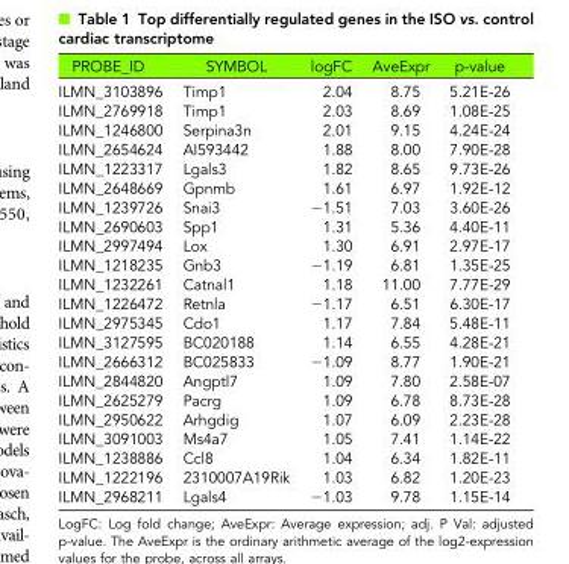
<table><thead><tr><td>PROBE_ID</td><td>SYMBOL</td><td>logFC</td><td>AveExpr</td><td>p-value</td></tr></thead><tbody><tr><td>ILMN_3103896</td><td>Timp1</td><td>2.04</td><td>8.75</td><td>5.21E-26</td></tr><tr><td>ILMN_2769918</td><td>Timp1</td><td>2.03</td><td>8.69</td><td>1.08E-25</td></tr><tr><td>ILMN_1246800</td><td>Serpina3n</td><td>2.01</td><td>9.15</td><td>4.24E-24</td></tr><tr><td>ILMN_2654624</td><td>AI593442</td><td>1.88</td><td>8.00</td><td>7.90E-28</td></tr><tr><td>ILMN_1223317</td><td>Lgals3</td><td>1.82</td><td>8.65</td><td>9.73E-26</td></tr><tr><td>ILMN_2648669</td><td>Gpnmb</td><td>1.61</td><td>6.97</td><td>1.92E-12</td></tr><tr><td>ILMN_1239726</td><td>Snai3</td><td>−1.51</td><td>7.03</td><td>3.60E-26</td></tr><tr><td>ILMN_2690603</td><td>Spp1</td><td>1.31</td><td>5.36</td><td>4.40E-11</td></tr><tr><td>ILMN_2997494</td><td>Lox</td><td>1.30</td><td>6.91</td><td>2.97E-17</td></tr><tr><td>ILMN_1218235</td><td>Gnb3</td><td>−1.19</td><td>6.81</td><td>1.35E-25</td></tr><tr><td>ILMN_1232261</td><td>Catnal1</td><td>1.18</td><td>11.00</td><td>7.77E-29</td></tr><tr><td>ILMN_1226472</td><td>Retnla</td><td>−1.17</td><td>6.51</td><td>6.30E-17</td></tr><tr><td>ILMN_2975345</td><td>Cdo1</td><td>1.17</td><td>7.84</td><td>5.48E-11</td></tr><tr><td>ILMN_3127595</td><td>BC020188</td><td>1.14</td><td>6.55</td><td>4.28E-21</td></tr><tr><td>ILMN_2666312</td><td>BC025833</td><td>−1.09</td><td>8.77</td><td>1.90E-21</td></tr><tr><td>ILMN_2844820</td><td>Angptl7</td><td>1.09</td><td>7.80</td><td>2.58E-07</td></tr><tr><td>ILMN_2625279</td><td>Pacrg</td><td>1.09</td><td>6.78</td><td>8.73E-28</td></tr><tr><td>ILMN_2950622</td><td>Arhgdig</td><td>1.07</td><td>6.09</td><td>2.23E-28</td></tr><tr><td>ILMN_3091003</td><td>Ms4a7</td><td>1.05</td><td>7.41</td><td>1.14E-22</td></tr><tr><td>ILMN_1238886</td><td>Ccl8</td><td>1.04</td><td>6.34</td><td>1.82E-11</td></tr><tr><td>ILMN_1222196</td><td>2310007A19Rik</td><td>1.03</td><td>6.82</td><td>1.20E-23</td></tr><tr><td>ILMN_2968211</td><td>Lgals4</td><td>−1.03</td><td>9.78</td><td>1.15E-14</td></tr></tbody></table>